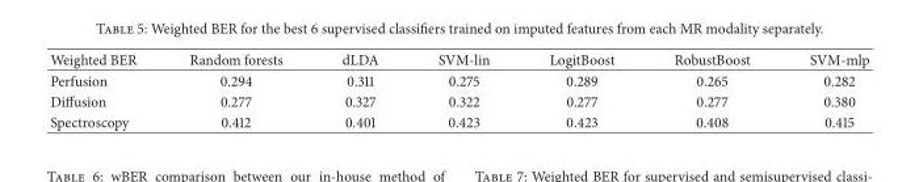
<table><thead><tr><td>Weighted BER</td><td>Random forests</td><td>dLDA</td><td>SVM-lin</td><td>LogitBoost</td><td>RobustBoost</td><td>SVM-mlp</td></tr></thead><tbody><tr><td>Perfusion</td><td>0.294</td><td>0.311</td><td>0.275</td><td>0.289</td><td>0.265</td><td>0.282</td></tr><tr><td>Diffusion</td><td>0.277</td><td>0.327</td><td>0.322</td><td>0.277</td><td>0.277</td><td>0.380</td></tr><tr><td>Spectroscopy</td><td>0.412</td><td>0.401</td><td>0.423</td><td>0.423</td><td>0.408</td><td>0.415</td></tr></tbody></table>